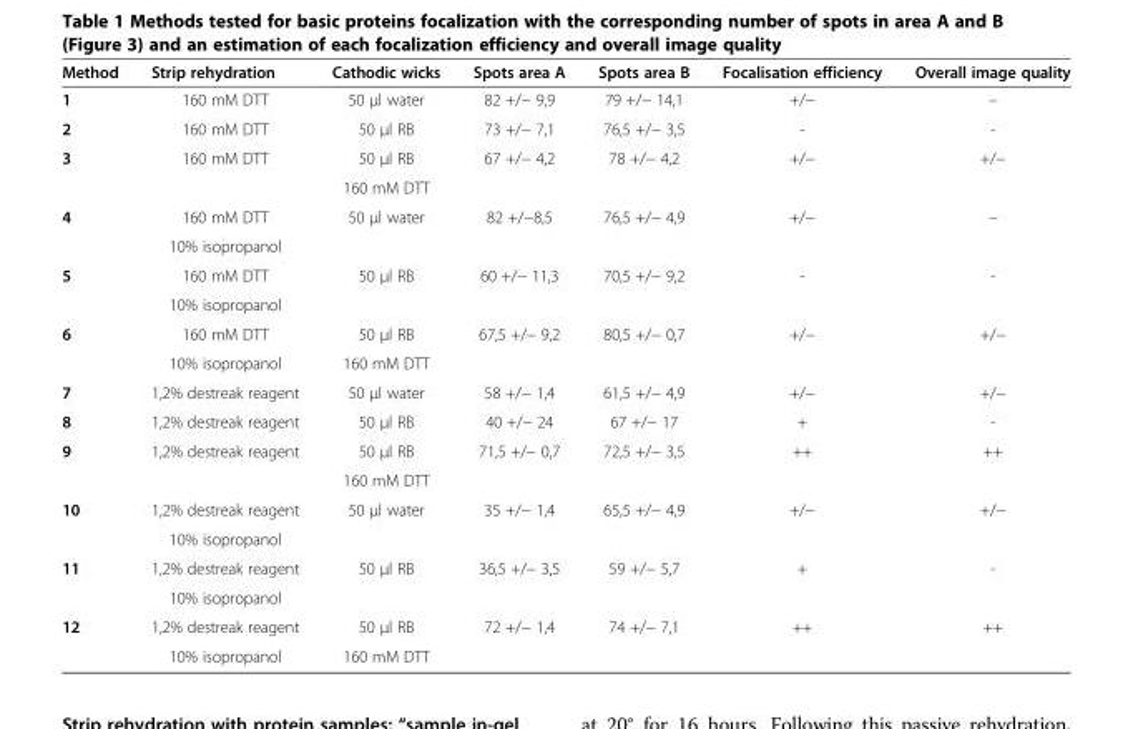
<table><thead><tr><td>Method</td><td>Strip rehydration</td><td>Cathodic wicks</td><td>Spots area A</td><td>Spots area B</td><td>Focalisation efficiency</td><td>Overall image quality</td></tr></thead><tbody><tr><td>1</td><td>160 mM DTT</td><td>50 μl water</td><td>82 +/− 9,9</td><td>79 +/− 14,1</td><td>+/−</td><td>–</td></tr><tr><td>2</td><td>160 mM DTT</td><td>50 μl RB</td><td>73 +/− 7,1</td><td>76,5 +/− 3,5</td><td>-</td><td>-</td></tr><tr><td rowspan="2">3</td><td>160 mM DTT</td><td>50 μl RB</td><td>67 +/− 4,2</td><td>78 +/− 4,2</td><td>+/−</td><td>+/−</td></tr><tr><td></td><td>160 mM DTT</td><td></td><td></td><td></td><td></td></tr><tr><td rowspan="2">4</td><td>160 mM DTT</td><td>50 μl water</td><td>82 +/−8,5</td><td>76,5 +/− 4,9</td><td>+/−</td><td>–</td></tr><tr><td>10% isopropanol</td><td></td><td></td><td></td><td></td><td></td></tr><tr><td rowspan="2">5</td><td>160 mM DTT</td><td>50 μl RB</td><td>60 +/− 11,3</td><td>70,5 +/− 9,2</td><td>-</td><td>-</td></tr><tr><td>10% isopropanol</td><td></td><td></td><td></td><td></td><td></td></tr><tr><td rowspan="2">6</td><td>160 mM DTT</td><td>50 μl RB</td><td>67,5 +/− 9,2</td><td>80,5 +/− 0,7</td><td>+/−</td><td>+/−</td></tr><tr><td>10% isopropanol</td><td>160 mM DTT</td><td></td><td></td><td></td><td></td></tr><tr><td>7</td><td>1,2% destreak reagent</td><td>50 μl water</td><td>58 +/− 1,4</td><td>61,5 +/− 4,9</td><td>+/−</td><td>+/−</td></tr><tr><td>8</td><td>1,2% destreak reagent</td><td>50 μl RB</td><td>40 +/− 24</td><td>67 +/− 17</td><td>+</td><td>-</td></tr><tr><td rowspan="2">9</td><td>1,2% destreak reagent</td><td>50 μl RB</td><td>71,5 +/− 0,7</td><td>72,5 +/− 3,5</td><td>++</td><td>++</td></tr><tr><td></td><td>160 mM DTT</td><td></td><td></td><td></td><td></td></tr><tr><td rowspan="2">10</td><td>1,2% destreak reagent</td><td>50 μl water</td><td>35 +/− 1,4</td><td>65,5 +/− 4,9</td><td>+/−</td><td>+/−</td></tr><tr><td>10% isopropanol</td><td></td><td></td><td></td><td></td><td></td></tr><tr><td rowspan="2">11</td><td>1,2% destreak reagent</td><td>50 μl RB</td><td>36,5 +/− 3,5</td><td>59 +/− 5,7</td><td>+</td><td>-</td></tr><tr><td>10% isopropanol</td><td></td><td></td><td></td><td></td><td></td></tr><tr><td rowspan="2">12</td><td>1,2% destreak reagent</td><td>50 μl RB</td><td>72 +/− 1,4</td><td>74 +/− 7,1</td><td>++</td><td>++</td></tr><tr><td>10% isopropanol</td><td>160 mM DTT</td><td></td><td></td><td></td><td></td></tr></tbody></table>